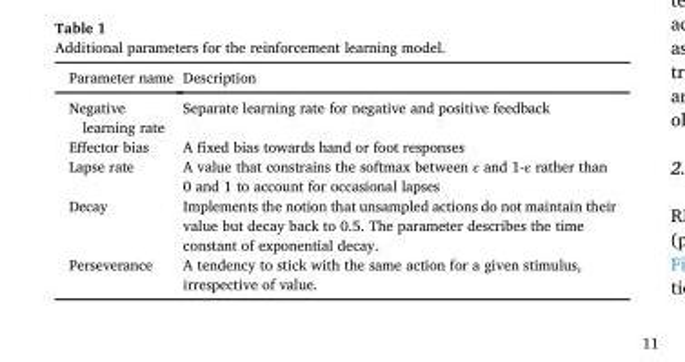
<table><thead><tr><td>Parameter name</td><td>Description</td></tr></thead><tbody><tr><td>Negative learning rate</td><td>Separate learning rate for negative and positive feedback</td></tr><tr><td>Effector bias</td><td>A fixed bias towards hand or foot responses</td></tr><tr><td>Lapse rate</td><td>A value that constrains the softmax between ε and 1-ε rather than 0 and 1 to account for occasional lapses</td></tr><tr><td>Decay</td><td>Implements the notion that unsampled actions do not maintain their value but decay back to 0.5. The parameter describes the time constant of exponential decay.</td></tr><tr><td>Perseverance</td><td>A tendency to stick with the same action for a given stimulus, irrespective of value.</td></tr></tbody></table>